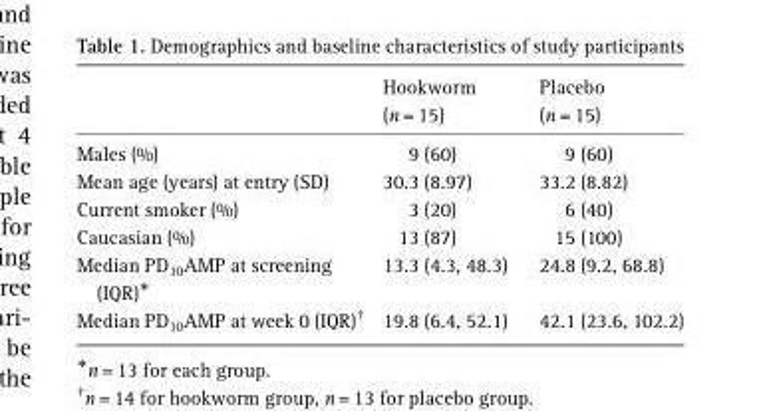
<table><thead><tr><td></td><td>Hookworm (n = 15)</td><td>Placebo (n = 15)</td></tr></thead><tbody><tr><td>Males (%)</td><td>9 (60)</td><td>9 (60)</td></tr><tr><td>Mean age (years) at entry (SD)</td><td>30.3 (8.97)</td><td>33.2 (8.82)</td></tr><tr><td>Current smoker (%)</td><td>3 (20)</td><td>6 (40)</td></tr><tr><td>Caucasian (%)</td><td>13 (87)</td><td>15 (100)</td></tr><tr><td>Median PD<sub>10</sub>AMP at screening (IQR)*</td><td>13.3 (4.3, 48.3)</td><td>24.8 (9.2, 68.8)</td></tr><tr><td>Median PD<sub>10</sub>AMP at week 0 (IQR)†</td><td>19.8 (6.4, 52.1)</td><td>42.1 (23.6, 102.2)</td></tr></tbody></table>